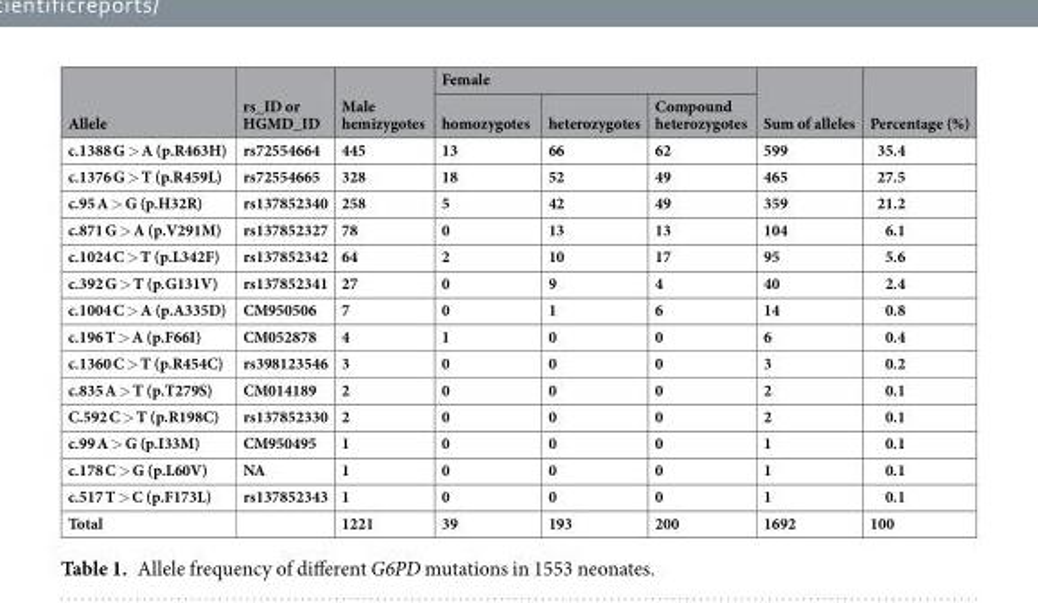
<table><thead><tr><td rowspan="2">Allele</td><td rowspan="2">rs_ID or HGMD_ID</td><td rowspan="2">Male hemizygotes</td><td colspan="3">Female</td><td rowspan="2">Sum of alleles</td><td rowspan="2">Percentage (%)</td></tr><tr><td>homozygotes</td><td>heterozygotes</td><td>Compound heterozygotes</td></tr></thead><tbody><tr><td>c.1388 G &gt; A (p.R463H)</td><td>rs72554664</td><td>445</td><td>13</td><td>66</td><td>62</td><td>599</td><td>35.4</td></tr><tr><td>c.1376 G &gt; T (p.R459L)</td><td>rs72554665</td><td>328</td><td>18</td><td>52</td><td>49</td><td>465</td><td>27.5</td></tr><tr><td>c.95 A &gt; G (p.H32R)</td><td>rs137852340</td><td>258</td><td>5</td><td>42</td><td>49</td><td>359</td><td>21.2</td></tr><tr><td>c.871 G &gt; A (p.V291M)</td><td>rs137852327</td><td>78</td><td>0</td><td>13</td><td>13</td><td>104</td><td>6.1</td></tr><tr><td>c.1024 C &gt; T (p.L342F)</td><td>rs137852342</td><td>64</td><td>2</td><td>10</td><td>17</td><td>95</td><td>5.6</td></tr><tr><td>c.392 G &gt; T (p.G131V)</td><td>rs137852341</td><td>27</td><td>0</td><td>9</td><td>4</td><td>40</td><td>2.4</td></tr><tr><td>c.1004 C &gt; A (p.A335D)</td><td>CM950506</td><td>7</td><td>0</td><td>1</td><td>6</td><td>14</td><td>0.8</td></tr><tr><td>c.196 T &gt; A (p.F66I)</td><td>CM052878</td><td>4</td><td>1</td><td>0</td><td>0</td><td>6</td><td>0.4</td></tr><tr><td>c.1360 C &gt; T (p.R454C)</td><td>rs398123546</td><td>3</td><td>0</td><td>0</td><td>0</td><td>3</td><td>0.2</td></tr><tr><td>c.835 A &gt; T (p.T279S)</td><td>CM014189</td><td>2</td><td>0</td><td>0</td><td>0</td><td>2</td><td>0.1</td></tr><tr><td>C.592 C &gt; T (p.R198C)</td><td>rs137852330</td><td>2</td><td>0</td><td>0</td><td>0</td><td>2</td><td>0.1</td></tr><tr><td>c.99 A &gt; G (p.I33M)</td><td>CM950495</td><td>1</td><td>0</td><td>0</td><td>0</td><td>1</td><td>0.1</td></tr><tr><td>c.178 C &gt; G (p.L60V)</td><td>NA</td><td>1</td><td>0</td><td>0</td><td>0</td><td>1</td><td>0.1</td></tr><tr><td>c.517 T &gt; C (p.F173L)</td><td>rs137852343</td><td>1</td><td>0</td><td>0</td><td>0</td><td>1</td><td>0.1</td></tr><tr><td>Total</td><td></td><td>1221</td><td>39</td><td>193</td><td>200</td><td>1692</td><td>100</td></tr></tbody></table>